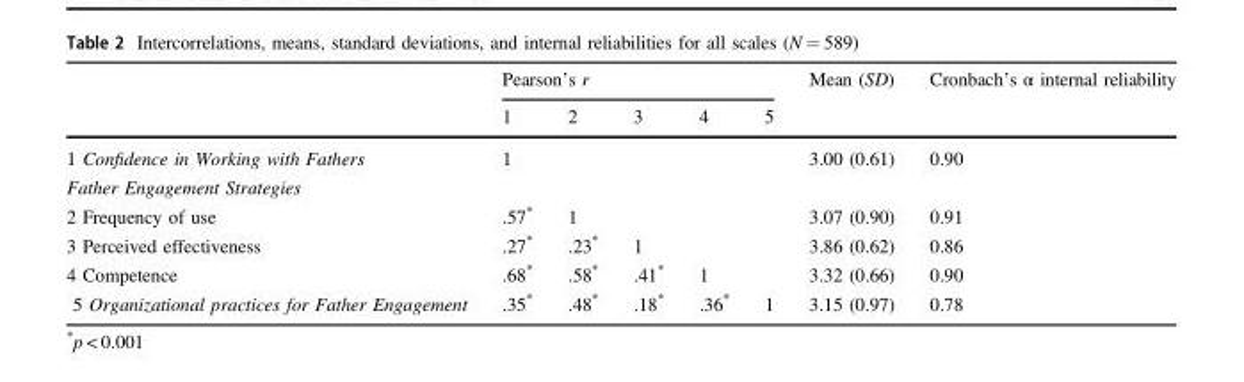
<table><thead><tr><td rowspan="2"></td><td colspan="5">Pearson’s r</td><td rowspan="2">Mean (SD)</td><td rowspan="2">Cronbach’s α internal reliability</td></tr><tr><td>1</td><td>2</td><td>3</td><td>4</td><td>5</td></tr></thead><tbody><tr><td>1 Confidence in Working with Fathers</td><td>1</td><td></td><td></td><td></td><td></td><td>3.00 (0.61)</td><td>0.90</td></tr><tr><td colspan="8">Father Engagement Strategies</td></tr><tr><td>2 Frequency of use</td><td>.57*</td><td>1</td><td></td><td></td><td></td><td>3.07 (0.90)</td><td>0.91</td></tr><tr><td>3 Perceived effectiveness</td><td>.27*</td><td>.23*</td><td>1</td><td></td><td></td><td>3.86 (0.62)</td><td>0.86</td></tr><tr><td>4 Competence</td><td>.68*</td><td>.58*</td><td>.41*</td><td>1</td><td></td><td>3.32 (0.66)</td><td>0.90</td></tr><tr><td>5 Organizational practices for Father Engagement</td><td>.35*</td><td>.48*</td><td>.18*</td><td>.36*</td><td>1</td><td>3.15 (0.97)</td><td>0.78</td></tr></tbody></table>